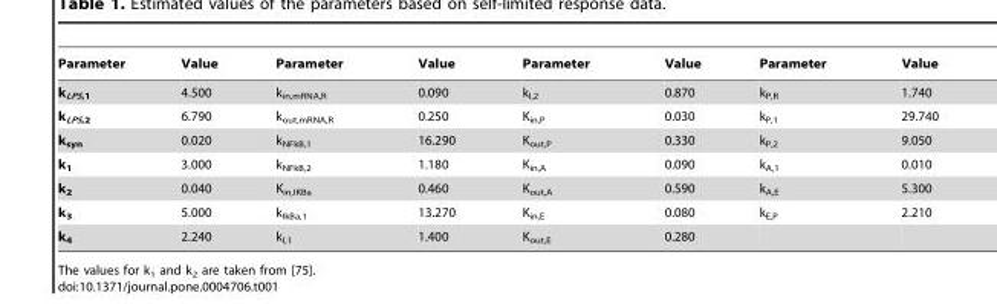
<table><thead><tr><td>Parameter</td><td>Value</td><td>Parameter</td><td>Value</td><td>Parameter</td><td>Value</td><td>Parameter</td><td>Value</td></tr></thead><tbody><tr><td>k<sub>LPS,1</sub></td><td>4.500</td><td>k<sub>in,mRNA,R</sub></td><td>0.090</td><td>k<sub>I,2</sub></td><td>0.870</td><td>k<sub>P,R</sub></td><td>1.740</td></tr><tr><td>k<sub>LPS,2</sub></td><td>6.790</td><td>k<sub>out,mRNA,R</sub></td><td>0.250</td><td>K<sub>in,P</sub></td><td>0.030</td><td>k<sub>P,1</sub></td><td>29.740</td></tr><tr><td>k<sub>syn</sub></td><td>0.020</td><td>k<sub>NFkB,1</sub></td><td>16.290</td><td>K<sub>out,P</sub></td><td>0.330</td><td>k<sub>P,2</sub></td><td>9.050</td></tr><tr><td>k<sub>1</sub></td><td>3.000</td><td>k<sub>NFkB,2</sub></td><td>1.180</td><td>K<sub>in,A</sub></td><td>0.090</td><td>k<sub>A,1</sub></td><td>0.010</td></tr><tr><td>k<sub>2</sub></td><td>0.040</td><td>K<sub>in,IKBa</sub></td><td>0.460</td><td>K<sub>out,A</sub></td><td>0.590</td><td>k<sub>A,E</sub></td><td>5.300</td></tr><tr><td>k<sub>3</sub></td><td>5.000</td><td>k<sub>IkBa,1</sub></td><td>13.270</td><td>K<sub>in,E</sub></td><td>0.080</td><td>k<sub>E,P</sub></td><td>2.210</td></tr><tr><td>k<sub>4</sub></td><td>2.240</td><td>k<sub>I,1</sub></td><td>1.400</td><td>K<sub>out,E</sub></td><td>0.280</td><td></td><td></td></tr></tbody></table>